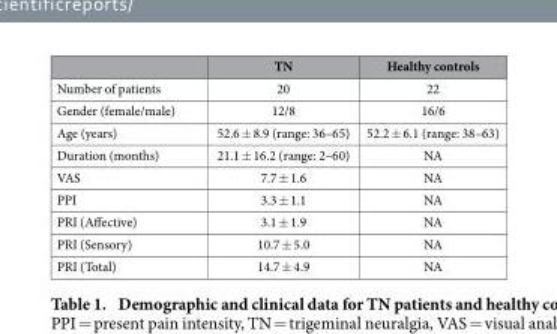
<table><thead><tr><td></td><td>TN</td><td>Healthy controls</td></tr></thead><tbody><tr><td>Number of patients</td><td>20</td><td>22</td></tr><tr><td>Gender (female/male)</td><td>12/8</td><td>16/6</td></tr><tr><td>Age (years)</td><td>52.6 ± 8.9 (range: 36–65)</td><td>52.2 ± 6.1 (range: 38–63)</td></tr><tr><td>Duration (months)</td><td>21.1 ± 16.2 (range: 2–60)</td><td>NA</td></tr><tr><td>VAS</td><td>7.7 ± 1.6</td><td>NA</td></tr><tr><td>PPI</td><td>3.3 ± 1.1</td><td>NA</td></tr><tr><td>PRI (Affective)</td><td>3.1 ± 1.9</td><td>NA</td></tr><tr><td>PRI (Sensory)</td><td>10.7 ± 5.0</td><td>NA</td></tr><tr><td>PRI (Total)</td><td>14.7 ± 4.9</td><td>NA</td></tr></tbody></table>